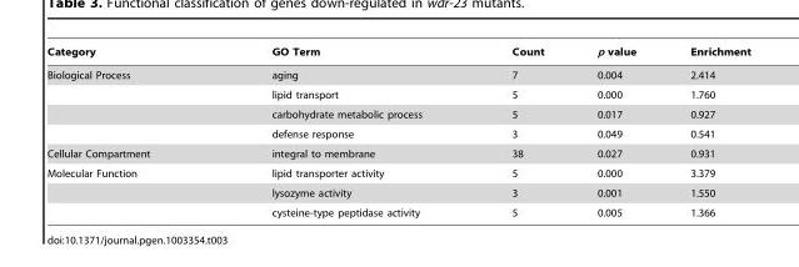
<table><thead><tr><td>Category</td><td>GO Term</td><td>Count</td><td>p value</td><td>Enrichment</td></tr></thead><tbody><tr><td rowspan="4">Biological Process</td><td>aging</td><td>7</td><td>0.004</td><td>2.414</td></tr><tr><td>lipid transport</td><td>5</td><td>0.000</td><td>1.760</td></tr><tr><td>carbohydrate metabolic process</td><td>5</td><td>0.017</td><td>0.927</td></tr><tr><td>defense response</td><td>3</td><td>0.049</td><td>0.541</td></tr><tr><td>Cellular Compartment</td><td>integral to membrane</td><td>38</td><td>0.027</td><td>0.931</td></tr><tr><td rowspan="3">Molecular Function</td><td>lipid transporter activity</td><td>5</td><td>0.000</td><td>3.379</td></tr><tr><td>lysozyme activity</td><td>3</td><td>0.001</td><td>1.550</td></tr><tr><td>cysteine-type peptidase activity</td><td>5</td><td>0.005</td><td>1.366</td></tr></tbody></table>